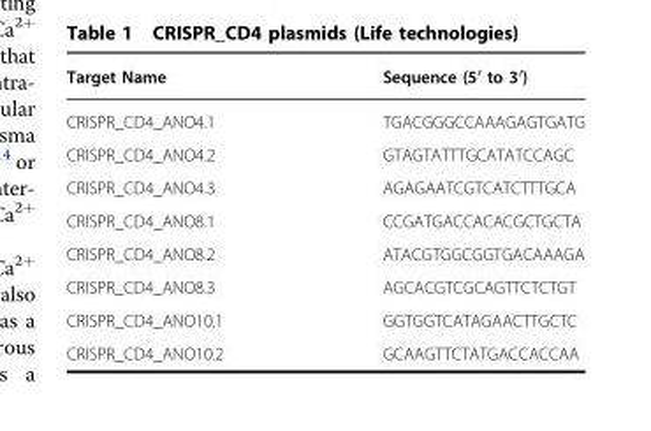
<table><thead><tr><td>Target Name</td><td>Sequence (5′ to 3′)</td></tr></thead><tbody><tr><td>CRISPR_CD4_ANO4.1</td><td>TGACGGGCCAAAGAGTGATG</td></tr><tr><td>CRISPR_CD4_ANO4.2</td><td>GTAGTATTTGCATATCCAGC</td></tr><tr><td>CRISPR_CD4_ANO4.3</td><td>AGAGAATCGTCATCTTTGCA</td></tr><tr><td>CRISPR_CD4_ANO8.1</td><td>CCGATGACCACACGCTGCTA</td></tr><tr><td>CRISPR_CD4_ANO8.2</td><td>ATACGTGGCGGTGACAAAGA</td></tr><tr><td>CRISPR_CD4_ANO8.3</td><td>AGCACGTCGCAGTTCTCTGT</td></tr><tr><td>CRISPR_CD4_ANO10.1</td><td>GGTGGTCATAGAACTTGCTC</td></tr><tr><td>CRISPR_CD4_ANO10.2</td><td>GCAAGTTCTATGACCACCAA</td></tr></tbody></table>